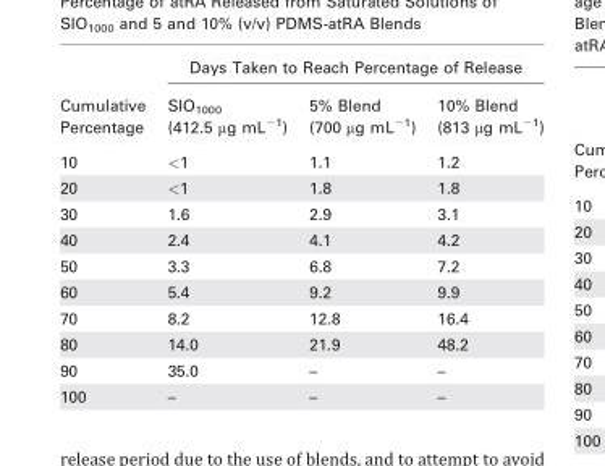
<table><thead><tr><td rowspan="2">Cumulative Percentage</td><td colspan="3">Days Taken to Reach Percentage of Release</td></tr><tr><td>SIO<sub>1000</sub> (412.5 µg mL<sup>−1</sup>)</td><td>5% Blend (700 µg mL<sup>−1</sup>)</td><td>10% Blend (813 µg mL<sup>−1</sup>)</td></tr></thead><tbody><tr><td>10</td><td>&lt;1</td><td>1.1</td><td>1.2</td></tr><tr><td>20</td><td>&lt;1</td><td>1.8</td><td>1.8</td></tr><tr><td>30</td><td>1.6</td><td>2.9</td><td>3.1</td></tr><tr><td>40</td><td>2.4</td><td>4.1</td><td>4.2</td></tr><tr><td>50</td><td>3.3</td><td>6.8</td><td>7.2</td></tr><tr><td>60</td><td>5.4</td><td>9.2</td><td>9.9</td></tr><tr><td>70</td><td>8.2</td><td>12.8</td><td>16.4</td></tr><tr><td>80</td><td>14.0</td><td>21.9</td><td>48.2</td></tr><tr><td>90</td><td>35.0</td><td>–</td><td>–</td></tr><tr><td>100</td><td>–</td><td>–</td><td>–</td></tr></tbody></table>